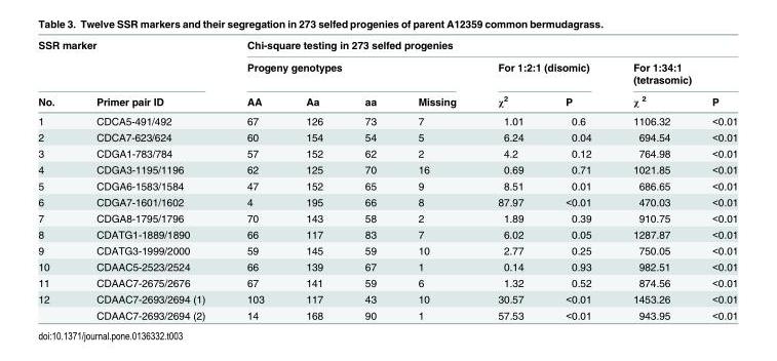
<table><thead><tr><td colspan="2">SSR marker</td><td colspan="8">Chi-square testing in 273 selfed progenies</td></tr><tr><td rowspan="2">No.</td><td rowspan="2">Primer pair ID</td><td colspan="4">Progeny genotypes</td><td colspan="2">For 1:2:1 (disomic)</td><td colspan="2">For 1:34:1 (tetrasomic)</td></tr><tr><td>AA</td><td>Aa</td><td>aa</td><td>Missing</td><td>χ<sup>2</sup></td><td>P</td><td>χ <sup>2</sup></td><td>P</td></tr></thead><tbody><tr><td>1</td><td>CDCA5-491/492</td><td>67</td><td>126</td><td>73</td><td>7</td><td>1.01</td><td>0.6</td><td>1106.32</td><td>&lt;0.01</td></tr><tr><td>2</td><td>CDCA7-623/624</td><td>60</td><td>154</td><td>54</td><td>5</td><td>6.24</td><td>0.04</td><td>694.54</td><td>&lt;0.01</td></tr><tr><td>3</td><td>CDGA1-783/784</td><td>57</td><td>152</td><td>62</td><td>2</td><td>4.2</td><td>0.12</td><td>764.98</td><td>&lt;0.01</td></tr><tr><td>4</td><td>CDGA3-1195/1196</td><td>62</td><td>125</td><td>70</td><td>16</td><td>0.69</td><td>0.71</td><td>1021.85</td><td>&lt;0.01</td></tr><tr><td>5</td><td>CDGA6-1583/1584</td><td>47</td><td>152</td><td>65</td><td>9</td><td>8.51</td><td>0.01</td><td>686.65</td><td>&lt;0.01</td></tr><tr><td>6</td><td>CDGA7-1601/1602</td><td>4</td><td>195</td><td>66</td><td>8</td><td>87.97</td><td>&lt;0.01</td><td>470.03</td><td>&lt;0.01</td></tr><tr><td>7</td><td>CDGA8-1795/1796</td><td>70</td><td>143</td><td>58</td><td>2</td><td>1.89</td><td>0.39</td><td>910.75</td><td>&lt;0.01</td></tr><tr><td>8</td><td>CDATG1-1889/1890</td><td>66</td><td>117</td><td>83</td><td>7</td><td>6.02</td><td>0.05</td><td>1287.87</td><td>&lt;0.01</td></tr><tr><td>9</td><td>CDATG3-1999/2000</td><td>59</td><td>145</td><td>59</td><td>10</td><td>2.77</td><td>0.25</td><td>750.05</td><td>&lt;0.01</td></tr><tr><td>10</td><td>CDAAC5-2523/2524</td><td>66</td><td>139</td><td>67</td><td>1</td><td>0.14</td><td>0.93</td><td>982.51</td><td>&lt;0.01</td></tr><tr><td>11</td><td>CDAAC7-2675/2676</td><td>67</td><td>141</td><td>59</td><td>6</td><td>1.32</td><td>0.52</td><td>874.56</td><td>&lt;0.01</td></tr><tr><td rowspan="2">12</td><td>CDAAC7-2693/2694 (1)</td><td>103</td><td>117</td><td>43</td><td>10</td><td>30.57</td><td>&lt;0.01</td><td>1453.26</td><td>&lt;0.01</td></tr><tr><td>CDAAC7-2693/2694 (2)</td><td>14</td><td>168</td><td>90</td><td>1</td><td>57.53</td><td>&lt;0.01</td><td>943.95</td><td>&lt;0.01</td></tr></tbody></table>